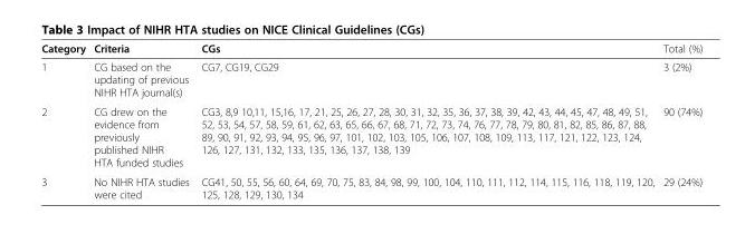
<table><thead><tr><td>Category</td><td>Criteria</td><td>CGs</td><td>Total (%)</td></tr></thead><tbody><tr><td>1</td><td>CG based on the updating of previous NIHR HTA journal(s)</td><td>CG7, CG19, CG29</td><td>3 (2%)</td></tr><tr><td>2</td><td>CG drew on the evidence from previously published NIHR HTA funded studies</td><td>CG3, 8,9 10,11, 15,16, 17, 21, 25, 26, 27, 28, 30, 31, 32, 35, 36, 37, 38, 39, 42, 43, 44, 45, 47, 48, 49, 51, 52, 53, 54, 57, 58, 59, 61, 62, 63, 65, 66, 67, 68, 71, 72, 73, 74, 76, 77, 78, 79, 80, 81, 82, 85, 86, 87, 88, 89, 90, 91, 92, 93, 94, 95, 96, 97, 101, 102, 103, 105, 106, 107, 108, 109, 113, 117, 121, 122, 123, 124, 126, 127, 131, 132, 133, 135, 136, 137, 138, 139</td><td>90 (74%)</td></tr><tr><td>3</td><td>No NIHR HTA studies were cited</td><td>CG41, 50, 55, 56, 60, 64, 69, 70, 75, 83, 84, 98, 99, 100, 104, 110, 111, 112, 114, 115, 116, 118, 119, 120, 125, 128, 129, 130, 134</td><td>29 (24%)</td></tr></tbody></table>